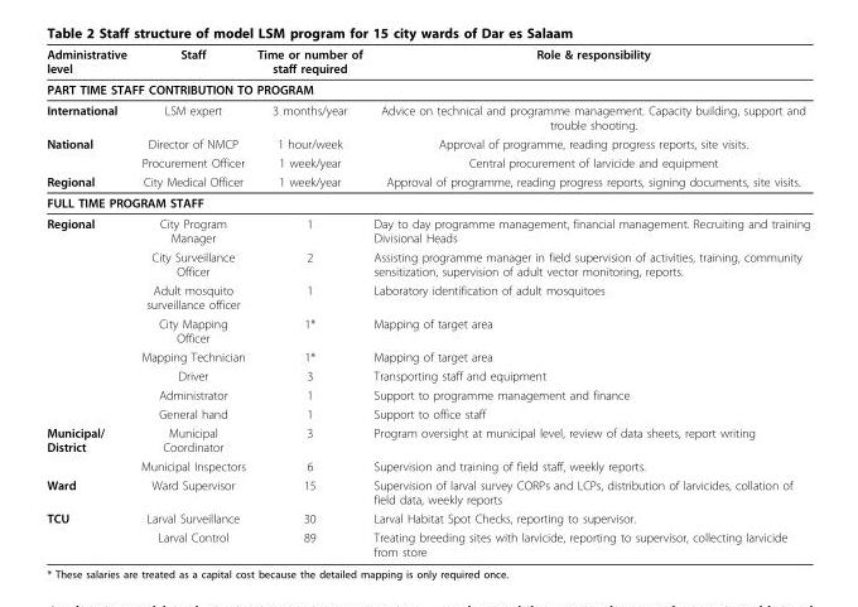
<table><thead><tr><td>Administrative level</td><td>Staff</td><td>Time or number of staff required</td><td>Role &amp; responsibility</td></tr></thead><tbody><tr><td colspan="4">PART TIME STAFF CONTRIBUTION TO PROGRAM</td></tr><tr><td>International</td><td>LSM expert</td><td>3 months/year</td><td>Advice on technical and programme management. Capacity building, support and trouble shooting.</td></tr><tr><td rowspan="2">National</td><td>Director of NMCP</td><td>1 hour/week</td><td>Approval of programme, reading progress reports, site visits.</td></tr><tr><td>Procurement Officer</td><td>1 week/year</td><td>Central procurement of larvicide and equipment</td></tr><tr><td>Regional</td><td>City Medical Officer</td><td>1 week/year</td><td>Approval of programme, reading progress reports, signing documents, site visits.</td></tr><tr><td colspan="4">FULL TIME PROGRAM STAFF</td></tr><tr><td rowspan="8">Regional</td><td>City Program Manager</td><td>1</td><td>Day to day programme management, financial management. Recruiting and training Divisional Heads</td></tr><tr><td>City Surveillance Officer</td><td>2</td><td>Assisting programme manager in field supervision of activities, training, community sensitization, supervision of adult vector monitoring, reports.</td></tr><tr><td>Adult mosquito surveillance officer</td><td>1</td><td>Laboratory identification of adult mosquitoes</td></tr><tr><td>City Mapping Officer</td><td>1*</td><td>Mapping of target area</td></tr><tr><td>Mapping Technician</td><td>1*</td><td>Mapping of target area</td></tr><tr><td>Driver</td><td>3</td><td>Transporting staff and equipment</td></tr><tr><td>Administrator</td><td>1</td><td>Support to programme management and finance</td></tr><tr><td>General hand</td><td>1</td><td>Support to office staff</td></tr><tr><td rowspan="2">Municipal/ District</td><td>Municipal Coordinator</td><td>3</td><td>Program oversight at municipal level, review of data sheets, report writing</td></tr><tr><td>Municipal Inspectors</td><td>6</td><td>Supervision and training of field staff, weekly reports.</td></tr><tr><td>Ward</td><td>Ward Supervisor</td><td>15</td><td>Supervision of larval survey CORPs and LCPs, distribution of larvicides, collation of field data, weekly reports</td></tr><tr><td rowspan="2">TCU</td><td>Larval Surveillance</td><td>30</td><td>Larval Habitat Spot Checks, reporting to supervisor.</td></tr><tr><td>Larval Control</td><td>89</td><td>Treating breeding sites with larvicide, reporting to supervisor, collecting larvicide from store</td></tr></tbody></table>